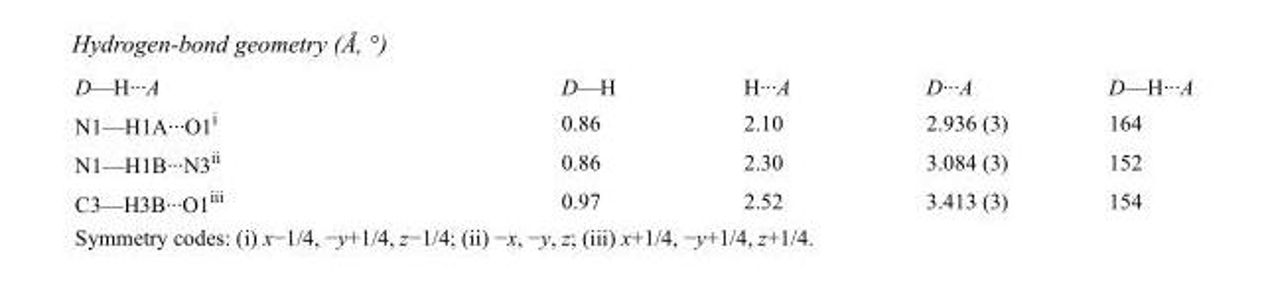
<table><tbody><tr><td>D—H···A</td><td>D—H</td><td>H···A</td><td>D···A</td><td>D—H···A</td></tr><tr><td>N1—H1A···O1<sup>i</sup></td><td>0.86</td><td>2.10</td><td>2.936 (3)</td><td>164</td></tr><tr><td>N1—H1B···N3<sup>ii</sup></td><td>0.86</td><td>2.30</td><td>3.084 (3)</td><td>152</td></tr><tr><td>C3—H3B···O1<sup>iii</sup></td><td>0.97</td><td>2.52</td><td>3.413 (3)</td><td>154</td></tr></tbody></table>